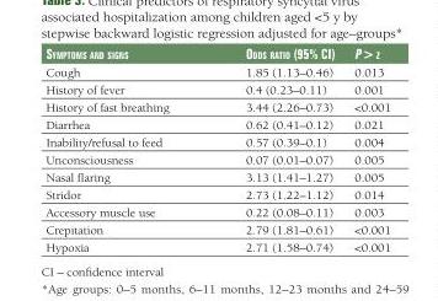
<table><thead><tr><td>symPtoms and signs</td><td>odds ratio (95% Ci)</td><td>P &gt; z</td></tr></thead><tbody><tr><td>Cough</td><td>1.85 (1.13–0.46)</td><td>0.013</td></tr><tr><td>History of fever</td><td>0.4 (0.23–0.11)</td><td>0.001</td></tr><tr><td>History of fast breathing</td><td>3.44 (2.26–0.73)</td><td>&lt;0.001</td></tr><tr><td>Diarrhea</td><td>0.62 (0.41–0.12)</td><td>0.021</td></tr><tr><td>Inability/refusal to feed</td><td>0.57 (0.39–0.1)</td><td>0.004</td></tr><tr><td>Unconsciousness</td><td>0.07 (0.01–0.07)</td><td>0.005</td></tr><tr><td>Nasal flaring</td><td>3.13 (1.41–1.27)</td><td>0.005</td></tr><tr><td>Stridor</td><td>2.73 (1.22–1.12)</td><td>0.014</td></tr><tr><td>Accessory muscle use</td><td>0.22 (0.08–0.11)</td><td>0.003</td></tr><tr><td>Crepitation</td><td>2.79 (1.81–0.61)</td><td>&lt;0.001</td></tr><tr><td>Hypoxia</td><td>2.71 (1.58–0.74)</td><td>&lt;0.001</td></tr></tbody></table>